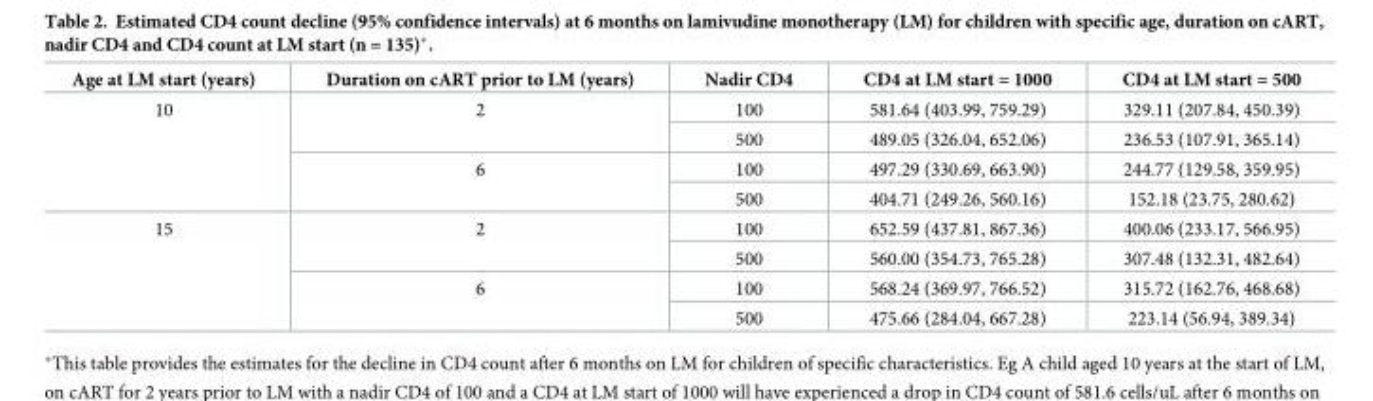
<table><thead><tr><td>Age at LM start (years)</td><td>Duration on cART prior to LM (years)</td><td>Nadir CD4</td><td>CD4 at LM start = 1000</td><td>CD4 at LM start = 500</td></tr></thead><tbody><tr><td rowspan="4">10</td><td rowspan="2">2</td><td>100</td><td>581.64 (403.99, 759.29)</td><td>329.11 (207.84, 450.39)</td></tr><tr><td>500</td><td>489.05 (326.04, 652.06)</td><td>236.53 (107.91, 365.14)</td></tr><tr><td rowspan="2">6</td><td>100</td><td>497.29 (330.69, 663.90)</td><td>244.77 (129.58, 359.95)</td></tr><tr><td>500</td><td>404.71 (249.26, 560.16)</td><td>152.18 (23.75, 280.62)</td></tr><tr><td rowspan="4">15</td><td rowspan="2">2</td><td>100</td><td>652.59 (437.81, 867.36)</td><td>400.06 (233.17, 566.95)</td></tr><tr><td>500</td><td>560.00 (354.73, 765.28)</td><td>307.48 (132.31, 482.64)</td></tr><tr><td rowspan="2">6</td><td>100</td><td>568.24 (369.97, 766.52)</td><td>315.72 (162.76, 468.68)</td></tr><tr><td>500</td><td>475.66 (284.04, 667.28)</td><td>223.14 (56.94, 389.34)</td></tr></tbody></table>